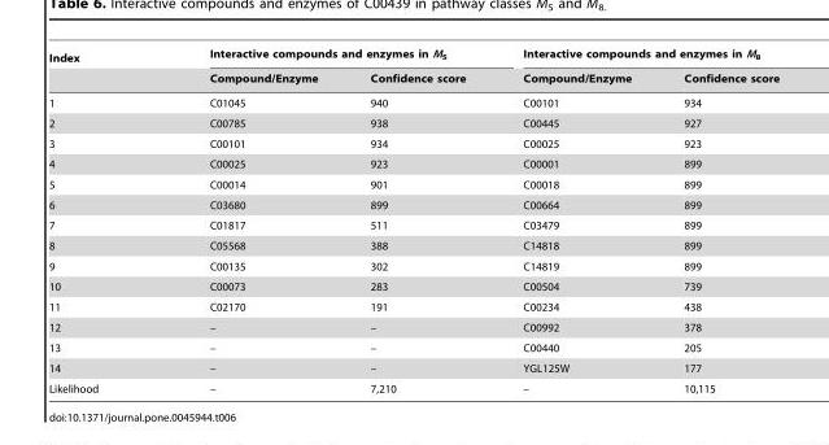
<table><thead><tr><td rowspan="2">Index</td><td colspan="2">Interactive compounds and enzymes in M<sub>5</sub></td><td colspan="2">Interactive compounds and enzymes in M<sub>8</sub></td></tr><tr><td>Compound/Enzyme</td><td>Confidence score</td><td>Compound/Enzyme</td><td>Confidence score</td></tr></thead><tbody><tr><td>1</td><td>C01045</td><td>940</td><td>C00101</td><td>934</td></tr><tr><td>2</td><td>C00785</td><td>938</td><td>C00445</td><td>927</td></tr><tr><td>3</td><td>C00101</td><td>934</td><td>C00025</td><td>923</td></tr><tr><td>4</td><td>C00025</td><td>923</td><td>C00001</td><td>899</td></tr><tr><td>5</td><td>C00014</td><td>901</td><td>C00018</td><td>899</td></tr><tr><td>6</td><td>C03680</td><td>899</td><td>C00664</td><td>899</td></tr><tr><td>7</td><td>C01817</td><td>511</td><td>C03479</td><td>899</td></tr><tr><td>8</td><td>C05568</td><td>388</td><td>C14818</td><td>899</td></tr><tr><td>9</td><td>C00135</td><td>302</td><td>C14819</td><td>899</td></tr><tr><td>10</td><td>C00073</td><td>283</td><td>C00504</td><td>739</td></tr><tr><td>11</td><td>C02170</td><td>191</td><td>C00234</td><td>438</td></tr><tr><td>12</td><td>–</td><td>–</td><td>C00992</td><td>378</td></tr><tr><td>13</td><td>–</td><td>–</td><td>C00440</td><td>205</td></tr><tr><td>14</td><td>–</td><td>–</td><td>YGL125W</td><td>177</td></tr><tr><td>Likelihood</td><td>–</td><td>7,210</td><td>–</td><td>10,115</td></tr></tbody></table>